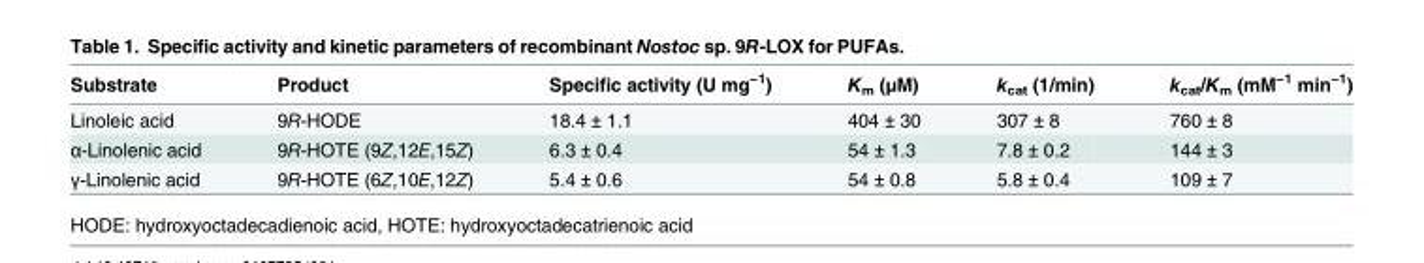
<table><thead><tr><td>Substrate</td><td>Product</td><td>Specific activity (U mg<sup>−1</sup>)</td><td>K<sub>m</sub> (μM)</td><td>k<sub>cat</sub> (1/min)</td><td>k<sub>cat</sub>/K<sub>m</sub> (mM<sup>−1</sup> min<sup>−1</sup>)</td></tr></thead><tbody><tr><td>Linoleic acid</td><td>9R-HODE</td><td>18.4 ± 1.1</td><td>404 ± 30</td><td>307 ± 8</td><td>760 ± 8</td></tr><tr><td>α-Linolenic acid</td><td>9R-HOTE (9Z,12E,15Z)</td><td>6.3 ± 0.4</td><td>54 ± 1.3</td><td>7.8 ± 0.2</td><td>144 ± 3</td></tr><tr><td>γ-Linolenic acid</td><td>9R-HOTE (6Z,10E,12Z)</td><td>5.4 ± 0.6</td><td>54 ± 0.8</td><td>5.8 ± 0.4</td><td>109 ± 7</td></tr></tbody></table>